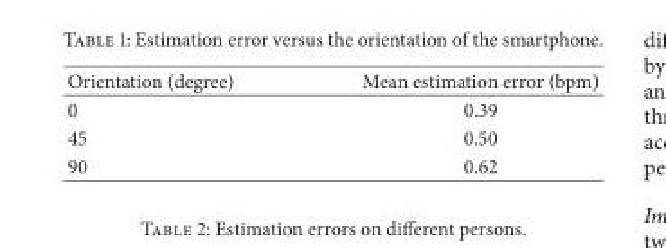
<table><thead><tr><td>Orientation (degree)</td><td>Mean estimation error (bpm)</td></tr></thead><tbody><tr><td>0</td><td>0.39</td></tr><tr><td>45</td><td>0.50</td></tr><tr><td>90</td><td>0.62</td></tr></tbody></table>